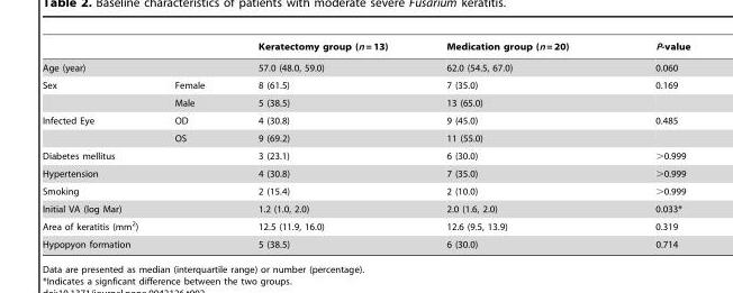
<table><thead><tr><td></td><td></td><td>Keratectomy group (n = 13)</td><td>Medication group (n = 20)</td><td>P-value</td></tr></thead><tbody><tr><td colspan="2">Age (year)</td><td>57.0 (48.0, 59.0)</td><td>62.0 (54.5, 67.0)</td><td>0.060</td></tr><tr><td rowspan="2">Sex</td><td>Female</td><td>8 (61.5)</td><td>7 (35.0)</td><td>0.169</td></tr><tr><td>Male</td><td>5 (38.5)</td><td>13 (65.0)</td><td></td></tr><tr><td rowspan="2">Infected Eye</td><td>OD</td><td>4 (30.8)</td><td>9 (45.0)</td><td>0.485</td></tr><tr><td>OS</td><td>9 (69.2)</td><td>11 (55.0)</td><td></td></tr><tr><td colspan="2">Diabetes mellitus</td><td>3 (23.1)</td><td>6 (30.0)</td><td>&gt;0.999</td></tr><tr><td colspan="2">Hypertension</td><td>4 (30.8)</td><td>7 (35.0)</td><td>&gt;0.999</td></tr><tr><td colspan="2">Smoking</td><td>2 (15.4)</td><td>2 (10.0)</td><td>&gt;0.999</td></tr><tr><td colspan="2">Initial VA (log Mar)</td><td>1.2 (1.0, 2.0)</td><td>2.0 (1.6, 2.0)</td><td>0.033*</td></tr><tr><td colspan="2">Area of keratitis (mm<sup>2</sup>)</td><td>12.5 (11.9, 16.0)</td><td>12.6 (9.5, 13.9)</td><td>0.319</td></tr><tr><td colspan="2">Hypopyon formation</td><td>5 (38.5)</td><td>6 (30.0)</td><td>0.714</td></tr></tbody></table>